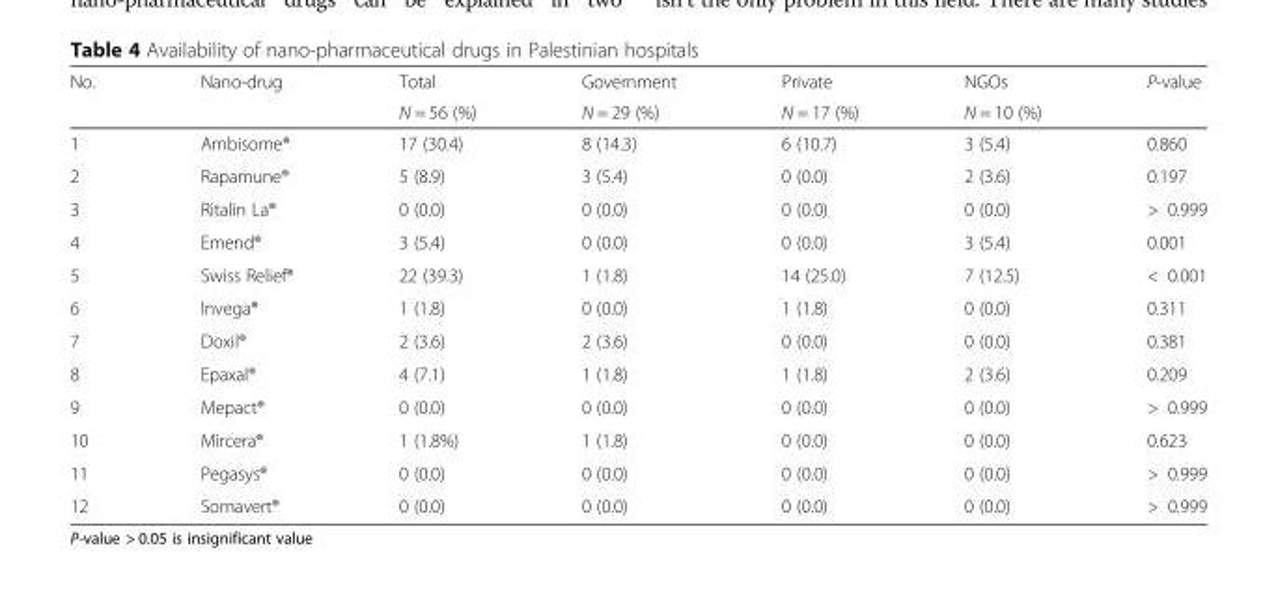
<table><thead><tr><td rowspan="2">No.</td><td rowspan="2">Nano-drug</td><td rowspan="2">Total N = 56 (%)</td><td rowspan="2">Government N = 29 (%)</td><td rowspan="2">Private N = 17 (%)</td><td rowspan="2">NGOs N = 10 (%)</td><td rowspan="2">P-value</td></tr><tr></tr></thead><tbody><tr><td>1</td><td>Ambisome®</td><td>17 (30.4)</td><td>8 (14.3)</td><td>6 (10.7)</td><td>3 (5.4)</td><td>0.860</td></tr><tr><td>2</td><td>Rapamune®</td><td>5 (8.9)</td><td>3 (5.4)</td><td>0 (0.0)</td><td>2 (3.6)</td><td>0.197</td></tr><tr><td>3</td><td>Ritalin La®</td><td>0 (0.0)</td><td>0 (0.0)</td><td>0 (0.0)</td><td>0 (0.0)</td><td>&gt; 0.999</td></tr><tr><td>4</td><td>Emend®</td><td>3 (5.4)</td><td>0 (0.0)</td><td>0 (0.0)</td><td>3 (5.4)</td><td>0.001</td></tr><tr><td>5</td><td>Swiss Relief®</td><td>22 (39.3)</td><td>1 (1.8)</td><td>14 (25.0)</td><td>7 (12.5)</td><td>&lt; 0.001</td></tr><tr><td>6</td><td>Invega®</td><td>1 (1.8)</td><td>0 (0.0)</td><td>1 (1.8)</td><td>0 (0.0)</td><td>0.311</td></tr><tr><td>7</td><td>Doxil®</td><td>2 (3.6)</td><td>2 (3.6)</td><td>0 (0.0)</td><td>0 (0.0)</td><td>0.381</td></tr><tr><td>8</td><td>Epaxal®</td><td>4 (7.1)</td><td>1 (1.8)</td><td>1 (1.8)</td><td>2 (3.6)</td><td>0.209</td></tr><tr><td>9</td><td>Mepact®</td><td>0 (0.0)</td><td>0 (0.0)</td><td>0 (0.0)</td><td>0 (0.0)</td><td>&gt; 0.999</td></tr><tr><td>10</td><td>Mircera®</td><td>1 (1.8%)</td><td>1 (1.8)</td><td>0 (0.0)</td><td>0 (0.0)</td><td>0.623</td></tr><tr><td>11</td><td>Pegasys®</td><td>0 (0.0)</td><td>0 (0.0)</td><td>0 (0.0)</td><td>0 (0.0)</td><td>&gt; 0.999</td></tr><tr><td>12</td><td>Somavert®</td><td>0 (0.0)</td><td>0 (0.0)</td><td>0 (0.0)</td><td>0 (0.0)</td><td>&gt; 0.999</td></tr></tbody></table>